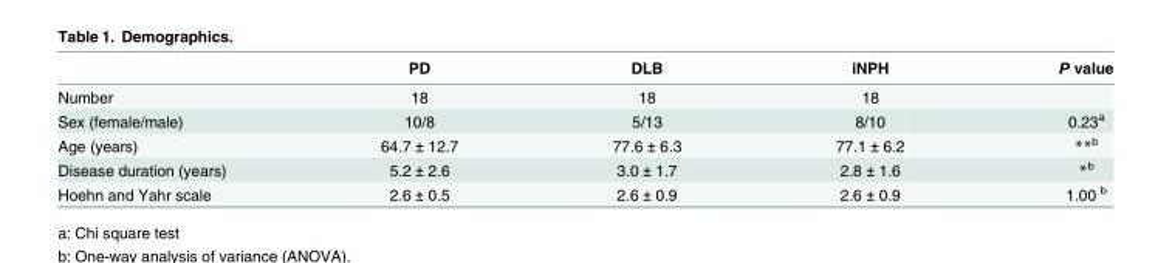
<table><thead><tr><td></td><td>PD</td><td>DLB</td><td>iNPH</td><td>P value</td></tr></thead><tbody><tr><td>Number</td><td>18</td><td>18</td><td>18</td><td></td></tr><tr><td>Sex (female/male)</td><td>10/8</td><td>5/13</td><td>8/10</td><td>0.23<sup>a</sup></td></tr><tr><td>Age (years)</td><td>64.7 ± 12.7</td><td>77.6 ± 6.3</td><td>77.1 ± 6.2</td><td>**<sup>b</sup></td></tr><tr><td>Disease duration (years)</td><td>5.2 ± 2.6</td><td>3.0 ± 1.7</td><td>2.8 ± 1.6</td><td>*<sup>b</sup></td></tr><tr><td>Hoehn and Yahr scale</td><td>2.6 ± 0.5</td><td>2.6 ± 0.9</td><td>2.6 ± 0.9</td><td>1.00 <sup>b</sup></td></tr></tbody></table>